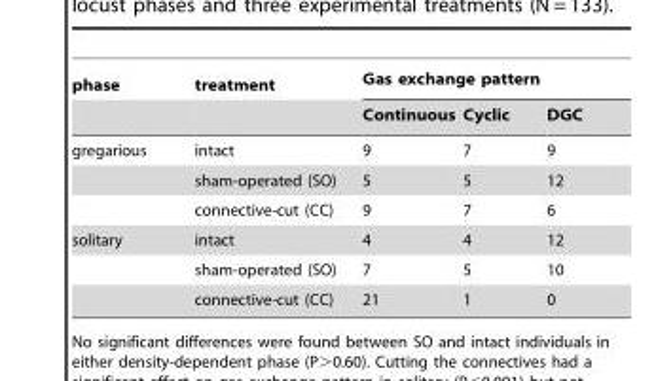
<table><thead><tr><td rowspan="2">phase</td><td rowspan="2">treatment</td><td colspan="3">Gas exchange pattern</td></tr><tr><td>Continuous</td><td>Cyclic</td><td>DGC</td></tr></thead><tbody><tr><td rowspan="3">gregarious</td><td>intact</td><td>9</td><td>7</td><td>9</td></tr><tr><td>sham-operated (SO)</td><td>5</td><td>5</td><td>12</td></tr><tr><td>connective-cut (CC)</td><td>9</td><td>7</td><td>6</td></tr><tr><td rowspan="3">solitary</td><td>intact</td><td>4</td><td>4</td><td>12</td></tr><tr><td>sham-operated (SO)</td><td>7</td><td>5</td><td>10</td></tr><tr><td>connective-cut (CC)</td><td>21</td><td>1</td><td>0</td></tr></tbody></table>